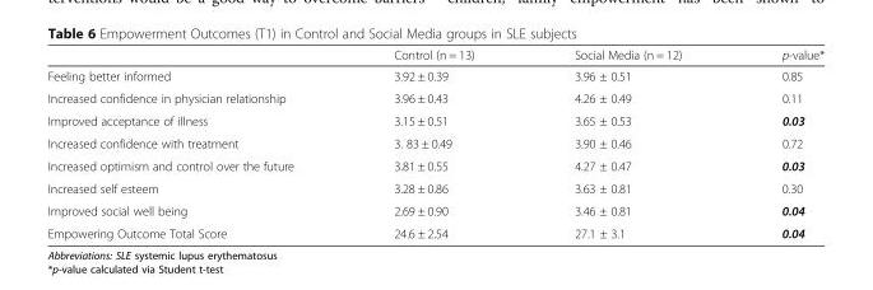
<table><thead><tr><td></td><td>Control (n = 13)</td><td>Social Media (n = 12)</td><td>p-value*</td></tr></thead><tbody><tr><td>Feeling better informed</td><td>3.92 ± 0.39</td><td>3.96 ± 0.51</td><td>0.85</td></tr><tr><td>Increased confidence in physician relationship</td><td>3.96 ± 0.43</td><td>4.26 ± 0.49</td><td>0.11</td></tr><tr><td>Improved acceptance of illness</td><td>3.15 ± 0.51</td><td>3.65 ± 0.53</td><td>0.03</td></tr><tr><td>Increased confidence with treatment</td><td>3. 83 ± 0.49</td><td>3.90 ± 0.46</td><td>0.72</td></tr><tr><td>Increased optimism and control over the future</td><td>3.81 ± 0.55</td><td>4.27 ± 0.47</td><td>0.03</td></tr><tr><td>Increased self esteem</td><td>3.28 ± 0.86</td><td>3.63 ± 0.81</td><td>0.30</td></tr><tr><td>Improved social well being</td><td>2.69 ± 0.90</td><td>3.46 ± 0.81</td><td>0.04</td></tr><tr><td>Empowering Outcome Total Score</td><td>24.6 ± 2.54</td><td>27.1 ± 3.1</td><td>0.04</td></tr></tbody></table>